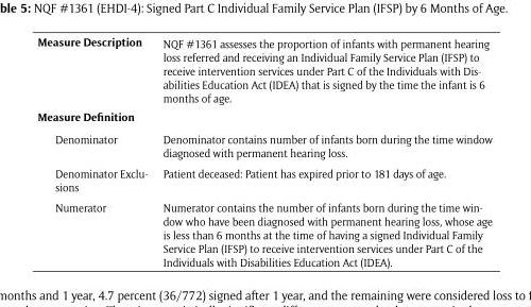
<table><tbody><tr><td>Measure Description</td><td>NQF #1361 assesses the proportion of infants with permanent hearing loss referred and receiving an Individual Family Service Plan (IFSP) to receive intervention services under Part C of the Individuals with Dis- abilities Education Act (IDEA) that is signed by the time the infant is 6 months of age.</td></tr><tr><td colspan="2">Measure Definition</td></tr><tr><td>Denominator</td><td>Denominator contains number of infants born during the time window diagnosed with permanent hearing loss.</td></tr><tr><td>Denominator Exclu- sions</td><td>Patient deceased: Patient has expired prior to 181 days of age.</td></tr><tr><td>Numerator</td><td>Numerator contains the number of infants born during the time win- dow who have been diagnosed with permanent hearing loss, whose age is less than 6 months at the time of having a signed Individual Family Service Plan (IFSP) to receive intervention services under Part C of the Individuals with Disabilities Education Act (IDEA).</td></tr></tbody></table>